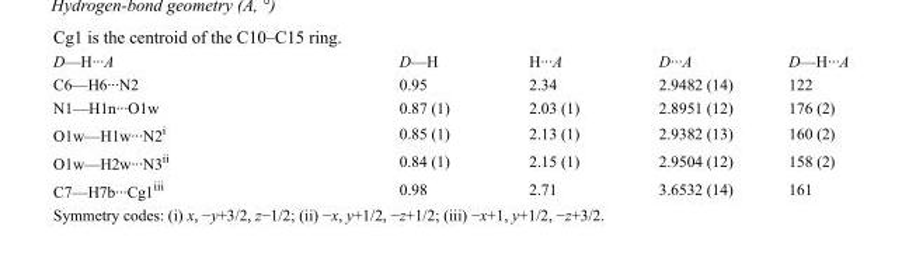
<table><tbody><tr><td>D—H···A</td><td>D—H</td><td>H···A</td><td>D···A</td><td>D—H···A</td></tr><tr><td>C6—H6···N2</td><td>0.95</td><td>2.34</td><td>2.9482 (14)</td><td>122</td></tr><tr><td>N1—H1n···O1w</td><td>0.87 (1)</td><td>2.03 (1)</td><td>2.8951 (12)</td><td>176 (2)</td></tr><tr><td>O1w—H1w···N2<sup>i</sup></td><td>0.85 (1)</td><td>2.13 (1)</td><td>2.9382 (13)</td><td>160 (2)</td></tr><tr><td>O1w—H2w···N3<sup>ii</sup></td><td>0.84 (1)</td><td>2.15 (1)</td><td>2.9504 (12)</td><td>158 (2)</td></tr><tr><td>C7—H7b···Cg1<sup>iii</sup></td><td>0.98</td><td>2.71</td><td>3.6532 (14)</td><td>161</td></tr></tbody></table>